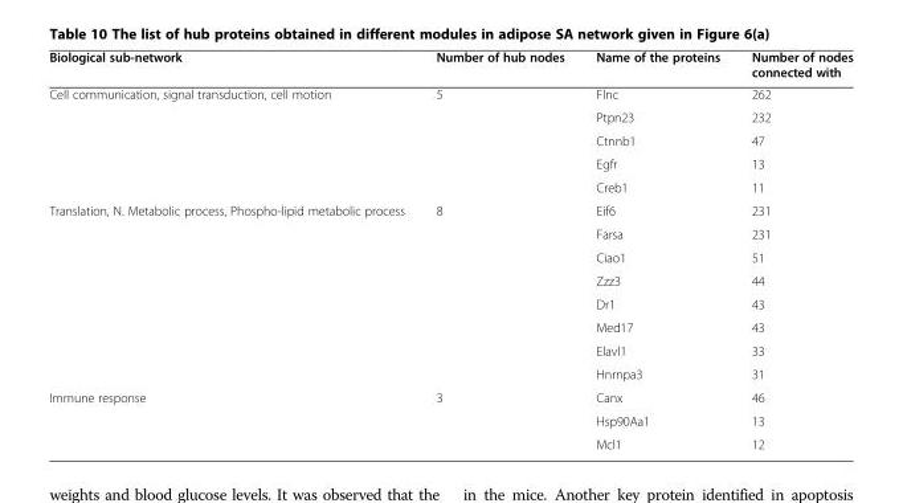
<table><thead><tr><td>Biological sub-network</td><td>Number of hub nodes</td><td>Name of the proteins</td><td>Number of nodes connected with</td></tr></thead><tbody><tr><td rowspan="5">Cell communication, signal transduction, cell motion</td><td rowspan="5">5</td><td>Flnc</td><td>262</td></tr><tr><td>Ptpn23</td><td>232</td></tr><tr><td>Ctnnb1</td><td>47</td></tr><tr><td>Egfr</td><td>13</td></tr><tr><td>Creb1</td><td>11</td></tr><tr><td rowspan="8">Translation, N. Metabolic process, Phospho-lipid metabolic process</td><td rowspan="8">8</td><td>Eif6</td><td>231</td></tr><tr><td>Farsa</td><td>231</td></tr><tr><td>Ciao1</td><td>51</td></tr><tr><td>Zzz3</td><td>44</td></tr><tr><td>Dr1</td><td>43</td></tr><tr><td>Med17</td><td>43</td></tr><tr><td>Elavl1</td><td>33</td></tr><tr><td>Hnrnpa3</td><td>31</td></tr><tr><td rowspan="3">Immune response</td><td rowspan="3">3</td><td>Canx</td><td>46</td></tr><tr><td>Hsp90Aa1</td><td>13</td></tr><tr><td>Mcl1</td><td>12</td></tr></tbody></table>